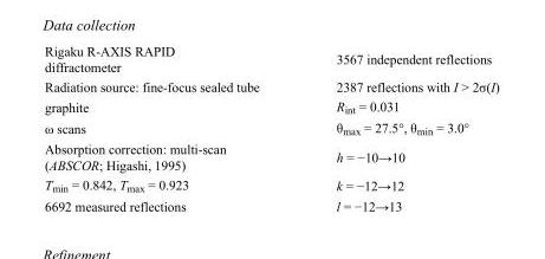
<table><tbody><tr><td>Rigaku R-AXIS RAPID diffractometer</td><td>3567 independent reflections</td></tr><tr><td>Radiation source: fine-focus sealed tube</td><td>2387 reflections with I &gt; 2σ(I)</td></tr><tr><td>graphite</td><td>R<sub>int</sub> = 0.031</td></tr><tr><td>ω scans</td><td>θ<sub>max</sub> = 27.5°, θ<sub>min</sub> = 3.0°</td></tr><tr><td>Absorption correction: multi-scan (ABSCOR; Higashi, 1995)</td><td>h = −10→10</td></tr><tr><td>T<sub>min</sub> = 0.842, T<sub>max</sub> = 0.923</td><td>k = −12→12</td></tr><tr><td>6692 measured reflections</td><td>l = −12→13</td></tr></tbody></table>